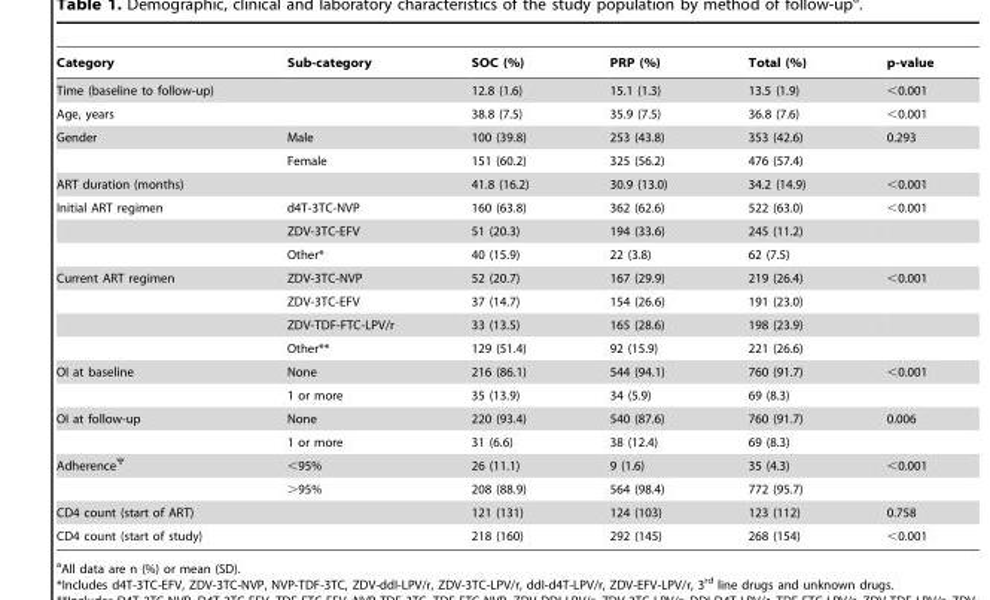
<table><thead><tr><td>Category</td><td>Sub-category</td><td>SOC (%)</td><td>PRP (%)</td><td>Total (%)</td><td>p-value</td></tr></thead><tbody><tr><td>Time (baseline to follow-up)</td><td></td><td>12.8 (1.6)</td><td>15.1 (1.3)</td><td>13.5 (1.9)</td><td>&lt;0.001</td></tr><tr><td>Age, years</td><td></td><td>38.8 (7.5)</td><td>35.9 (7.5)</td><td>36.8 (7.6)</td><td>&lt;0.001</td></tr><tr><td rowspan="2">Gender</td><td>Male</td><td>100 (39.8)</td><td>253 (43.8)</td><td>353 (42.6)</td><td>0.293</td></tr><tr><td>Female</td><td>151 (60.2)</td><td>325 (56.2)</td><td>476 (57.4)</td><td></td></tr><tr><td>ART duration (months)</td><td></td><td>41.8 (16.2)</td><td>30.9 (13.0)</td><td>34.2 (14.9)</td><td>&lt;0.001</td></tr><tr><td rowspan="3">Initial ART regimen</td><td>d4T-3TC-NVP</td><td>160 (63.8)</td><td>362 (62.6)</td><td>522 (63.0)</td><td>&lt;0.001</td></tr><tr><td>ZDV-3TC-EFV</td><td>51 (20.3)</td><td>194 (33.6)</td><td>245 (11.2)</td><td></td></tr><tr><td>Other*</td><td>40 (15.9)</td><td>22 (3.8)</td><td>62 (7.5)</td><td></td></tr><tr><td rowspan="4">Current ART regimen</td><td>ZDV-3TC-NVP</td><td>52 (20.7)</td><td>167 (29.9)</td><td>219 (26.4)</td><td>&lt;0.001</td></tr><tr><td>ZDV-3TC-EFV</td><td>37 (14.7)</td><td>154 (26.6)</td><td>191 (23.0)</td><td></td></tr><tr><td>ZDV-TDF-FTC-LPV/r</td><td>33 (13.5)</td><td>165 (28.6)</td><td>198 (23.9)</td><td></td></tr><tr><td>Other**</td><td>129 (51.4)</td><td>92 (15.9)</td><td>221 (26.6)</td><td></td></tr><tr><td rowspan="2">OI at baseline</td><td>None</td><td>216 (86.1)</td><td>544 (94.1)</td><td>760 (91.7)</td><td>&lt;0.001</td></tr><tr><td>1 or more</td><td>35 (13.9)</td><td>34 (5.9)</td><td>69 (8.3)</td><td></td></tr><tr><td rowspan="2">OI at follow-up</td><td>None</td><td>220 (93.4)</td><td>540 (87.6)</td><td>760 (91.7)</td><td>0.006</td></tr><tr><td>1 or more</td><td>31 (6.6)</td><td>38 (12.4)</td><td>69 (8.3)</td><td></td></tr><tr><td rowspan="2">AdherenceΨ</td><td>&lt;95%</td><td>26 (11.1)</td><td>9 (1.6)</td><td>35 (4.3)</td><td>&lt;0.001</td></tr><tr><td>&gt;95%</td><td>208 (88.9)</td><td>564 (98.4)</td><td>772 (95.7)</td><td></td></tr><tr><td>CD4 count (start of ART)</td><td></td><td>121 (131)</td><td>124 (103)</td><td>123 (112)</td><td>0.758</td></tr><tr><td>CD4 count (start of study)</td><td></td><td>218 (160)</td><td>292 (145)</td><td>268 (154)</td><td>&lt;0.001</td></tr></tbody></table>